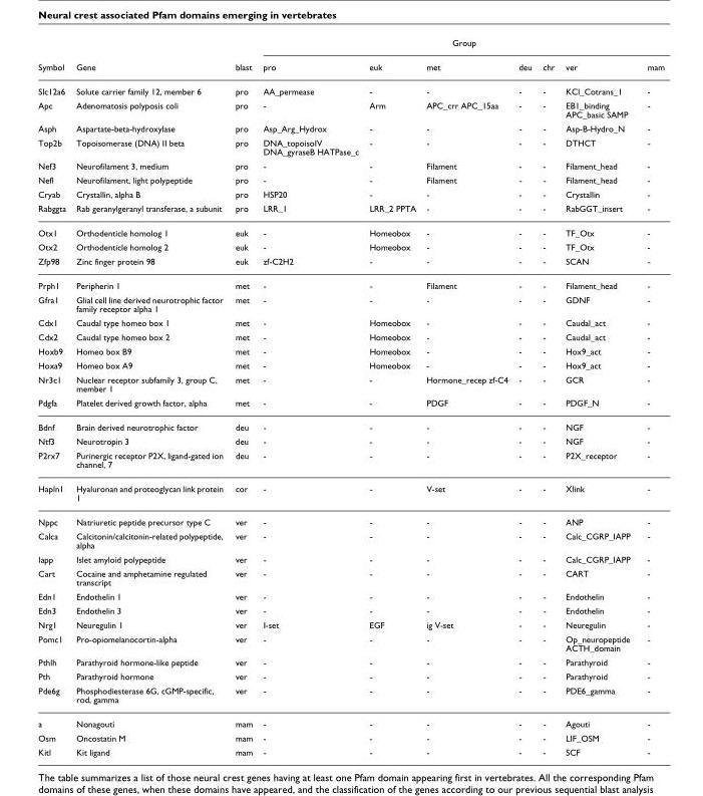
<table><thead><tr><td rowspan="2">Symbol</td><td rowspan="2">Gene</td><td rowspan="2">blast</td><td colspan="7">Group</td></tr><tr><td>pro</td><td>euk</td><td>met</td><td>deu</td><td>chr</td><td>ver</td><td>mam</td></tr></thead><tbody><tr><td>Slc12a6</td><td>Solute carrier family 12, member 6</td><td>pro</td><td>AA_permease</td><td>-</td><td>-</td><td>-</td><td>-</td><td>KCl_Cotrans_1</td><td>-</td></tr><tr><td>Apc</td><td>Adenomatosis polyposis coli</td><td>pro</td><td>-</td><td>Arm</td><td>APC_crr APC_15aa</td><td>-</td><td>-</td><td>EB1_binding APC_basic SAMP</td><td>-</td></tr><tr><td>Asph</td><td>Aspartate-beta-hydroxylase</td><td>pro</td><td>Asp_Arg_Hydrox</td><td>-</td><td>-</td><td>-</td><td>-</td><td>Asp-B-Hydro_N</td><td>-</td></tr><tr><td>Top2b</td><td>Topoisomerase (DNA) II beta</td><td>pro</td><td>DNA_topoisoIV DNA_gyraseB HATPase_c</td><td>-</td><td>-</td><td>-</td><td>-</td><td>DTHCT</td><td>-</td></tr><tr><td>Nef3</td><td>Neurofilament 3, medium</td><td>pro</td><td>-</td><td>-</td><td>Filament</td><td>-</td><td>-</td><td>Filament_head</td><td>-</td></tr><tr><td>Nefl</td><td>Neurofilament, light polypeptide</td><td>pro</td><td>-</td><td>-</td><td>Filament</td><td>-</td><td>-</td><td>Filament_head</td><td>-</td></tr><tr><td>Cryab</td><td>Crystallin, alpha B</td><td>pro</td><td>HSP20</td><td>-</td><td>-</td><td>-</td><td>-</td><td>Crystallin</td><td>-</td></tr><tr><td>Rabggta</td><td>Rab geranylgeranyl transferase, a subunit</td><td>pro</td><td>LRR_1</td><td>LRR_2 PPTA</td><td>-</td><td>-</td><td>-</td><td>RabGGT_insert</td><td>-</td></tr><tr><td>Otx1</td><td>Orthodenticle homolog 1</td><td>euk</td><td>-</td><td>Homeobox</td><td>-</td><td>-</td><td>-</td><td>TF_Otx</td><td>-</td></tr><tr><td>Otx2</td><td>Orthodenticle homolog 2</td><td>euk</td><td>-</td><td>Homeobox</td><td>-</td><td>-</td><td>-</td><td>TF_Otx</td><td>-</td></tr><tr><td>Zfp98</td><td>Zinc finger protein 98</td><td>euk</td><td>zf-C2H2</td><td>-</td><td>-</td><td>-</td><td>-</td><td>SCAN</td><td>-</td></tr><tr><td>Prph1</td><td>Peripherin 1</td><td>met</td><td>-</td><td>-</td><td>Filament</td><td>-</td><td>-</td><td>Filament_head</td><td>-</td></tr><tr><td>Gfra1</td><td>Glial cell line derived neurotrophic factor family receptor alpha 1</td><td>met</td><td>-</td><td>-</td><td>-</td><td>-</td><td>-</td><td>GDNF</td><td>-</td></tr><tr><td>Cdx1</td><td>Caudal type homeo box 1</td><td>met</td><td>-</td><td>Homeobox</td><td>-</td><td>-</td><td>-</td><td>Caudal_act</td><td>-</td></tr><tr><td>Cdx2</td><td>Caudal type homeo box 2</td><td>met</td><td>-</td><td>Homeobox</td><td>-</td><td>-</td><td>-</td><td>Caudal_act</td><td>-</td></tr><tr><td>Hoxb9</td><td>Homeo box B9</td><td>met</td><td>-</td><td>Homeobox</td><td>-</td><td>-</td><td>-</td><td>Hox9_act</td><td>-</td></tr><tr><td>Hoxa9</td><td>Homeo box A9</td><td>met</td><td>-</td><td>Homeobox</td><td>-</td><td>-</td><td>-</td><td>Hox9_act</td><td>-</td></tr><tr><td>Nr3c1</td><td>Nuclear receptor subfamily 3, group C, member 1</td><td>met</td><td>-</td><td>-</td><td>Hormone_recep zf-C4</td><td>-</td><td>-</td><td>GCR</td><td>-</td></tr><tr><td>Pdgfa</td><td>Platelet derived growth factor, alpha</td><td>met</td><td>-</td><td>-</td><td>PDGF</td><td>-</td><td>-</td><td>PDGF_N</td><td>-</td></tr><tr><td>Bdnf</td><td>Brain derived neurotrophic factor</td><td>deu</td><td>-</td><td>-</td><td>-</td><td>-</td><td>-</td><td>NGF</td><td>-</td></tr><tr><td>Ntf3</td><td>Neurotropin 3</td><td>deu</td><td>-</td><td>-</td><td>-</td><td>-</td><td>-</td><td>NGF</td><td>-</td></tr><tr><td>P2rx7</td><td>Purinergic receptor P2X, ligand-gated ion channel, 7</td><td>deu</td><td>-</td><td>-</td><td>-</td><td>-</td><td>-</td><td>P2X_receptor</td><td>-</td></tr><tr><td>Hapln1</td><td>Hyaluronan and proteoglycan link protein 1</td><td>cor</td><td>-</td><td>-</td><td>V-set</td><td>-</td><td>-</td><td>Xlink</td><td>-</td></tr><tr><td>Nppc</td><td>Natriuretic peptide precursor type C</td><td>ver</td><td>-</td><td>-</td><td>-</td><td>-</td><td>-</td><td>ANP</td><td>-</td></tr><tr><td>Calca</td><td>Calcitonin/calcitonin-related polypeptide, alpha</td><td>ver</td><td>-</td><td>-</td><td>-</td><td>-</td><td>-</td><td>Calc_CGRP_IAPP</td><td>-</td></tr><tr><td>Iapp</td><td>Islet amyloid polypeptide</td><td>ver</td><td>-</td><td>-</td><td>-</td><td>-</td><td>-</td><td>Calc_CGRP_IAPP</td><td>-</td></tr><tr><td>Cart</td><td>Cocaine and amphetamine regulated transcript</td><td>ver</td><td>-</td><td>-</td><td>-</td><td>-</td><td>-</td><td>CART</td><td>-</td></tr><tr><td>Edn1</td><td>Endothelin 1</td><td>ver</td><td>-</td><td>-</td><td>-</td><td>-</td><td>-</td><td>Endothelin</td><td>-</td></tr><tr><td>Edn3</td><td>Endothelin 3</td><td>ver</td><td>-</td><td>-</td><td>-</td><td>-</td><td>-</td><td>Endothelin</td><td>-</td></tr><tr><td>Nrg1</td><td>Neuregulin 1</td><td>ver</td><td>I-set</td><td>EGF</td><td>ig V-set</td><td>-</td><td>-</td><td>Neuregulin</td><td>-</td></tr><tr><td>Pomc1</td><td>Pro-opiomelanocortin-alpha</td><td>ver</td><td>-</td><td>-</td><td>-</td><td>-</td><td>-</td><td>Op_neuropeptide ACTH_domain</td><td>-</td></tr><tr><td>Pthlh</td><td>Parathyroid hormone-like peptide</td><td>ver</td><td>-</td><td>-</td><td>-</td><td>-</td><td>-</td><td>Parathyroid</td><td>-</td></tr><tr><td>Pth</td><td>Parathyroid hormone</td><td>ver</td><td>-</td><td>-</td><td>-</td><td>-</td><td>-</td><td>Parathyroid</td><td>-</td></tr><tr><td>Pde6g</td><td>Phosphodiesterase 6G, cGMP-specific, rod, gamma</td><td>ver</td><td>-</td><td>-</td><td>-</td><td>-</td><td>-</td><td>PDE6_gamma</td><td>-</td></tr><tr><td>a</td><td>Nonagouti</td><td>mam</td><td>-</td><td>-</td><td>-</td><td>-</td><td>-</td><td>Agouti</td><td>-</td></tr><tr><td>Osm</td><td>Oncostatin M</td><td>mam</td><td>-</td><td>-</td><td>-</td><td>-</td><td>-</td><td>LIF_OSM</td><td>-</td></tr><tr><td>Kitl</td><td>Kit ligand</td><td>mam</td><td>-</td><td>-</td><td>-</td><td>-</td><td>-</td><td>SCF</td><td>-</td></tr></tbody></table>